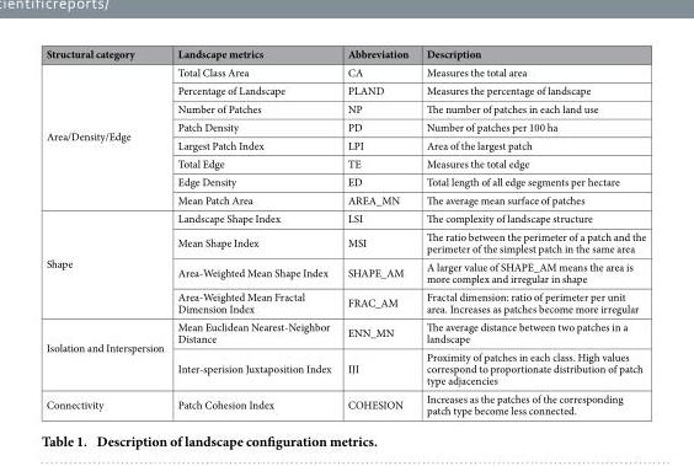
<table><thead><tr><td>Structural category</td><td>Landscape metrics</td><td>Abbreviation</td><td>Description</td></tr></thead><tbody><tr><td rowspan="8">Area/Density/Edge</td><td>Total Class Area</td><td>CA</td><td>Measures the total area</td></tr><tr><td>Percentage of Landscape</td><td>PLAND</td><td>Measures the percentage of landscape</td></tr><tr><td>Number of Patches</td><td>NP</td><td>The number of patches in each land use</td></tr><tr><td>Patch Density</td><td>PD</td><td>Number of patches per 100 ha</td></tr><tr><td>Largest Patch Index</td><td>LPI</td><td>Area of the largest patch</td></tr><tr><td>Total Edge</td><td>TE</td><td>Measures the total edge</td></tr><tr><td>Edge Density</td><td>ED</td><td>Total length of all edge segments per hectare</td></tr><tr><td>Mean Patch Area</td><td>AREA_MN</td><td>The average mean surface of patches</td></tr><tr><td rowspan="4">Shape</td><td>Landscape Shape Index</td><td>LSI</td><td>The complexity of landscape structure</td></tr><tr><td>Mean Shape Index</td><td>MSI</td><td>The ratio between the perimeter of a patch and the perimeter of the simplest patch in the same area</td></tr><tr><td>Area-Weighted Mean Shape Index</td><td>SHAPE_AM</td><td>A larger value of SHAPE_AM means the area is more complex and irregular in shape</td></tr><tr><td>Area-Weighted Mean Fractal Dimension Index</td><td>FRAC_AM</td><td>Fractal dimension: ratio of perimeter per unit area. Increases as patches become more irregular</td></tr><tr><td rowspan="2">Isolation and Interspersion</td><td>Mean Euclidean Nearest-Neighbor Distance</td><td>ENN_MN</td><td>The average distance between two patches in a landscape</td></tr><tr><td>Inter-sperision Juxtaposition Index</td><td>IJI</td><td>Proximity of patches in each class. High values correspond to proportionate distribution of patch type adjacencies</td></tr><tr><td>Connectivity</td><td>Patch Cohesion Index</td><td>COHESION</td><td>Increases as the patches of the corresponding patch type become less connected.</td></tr></tbody></table>